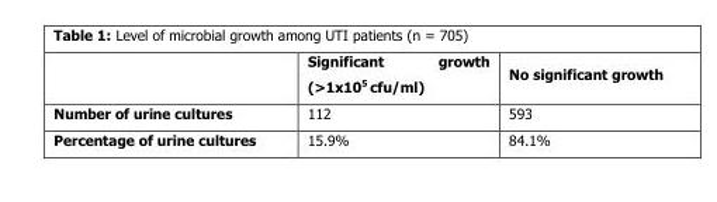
<table><thead><tr><td></td><td>Significant growth (&gt;1x10<sup>5</sup> cfu/ml)</td><td>No significant growth</td></tr></thead><tbody><tr><td>Number of urine cultures</td><td>112</td><td>593</td></tr><tr><td>Percentage of urine cultures</td><td>15.9%</td><td>84.1%</td></tr></tbody></table>